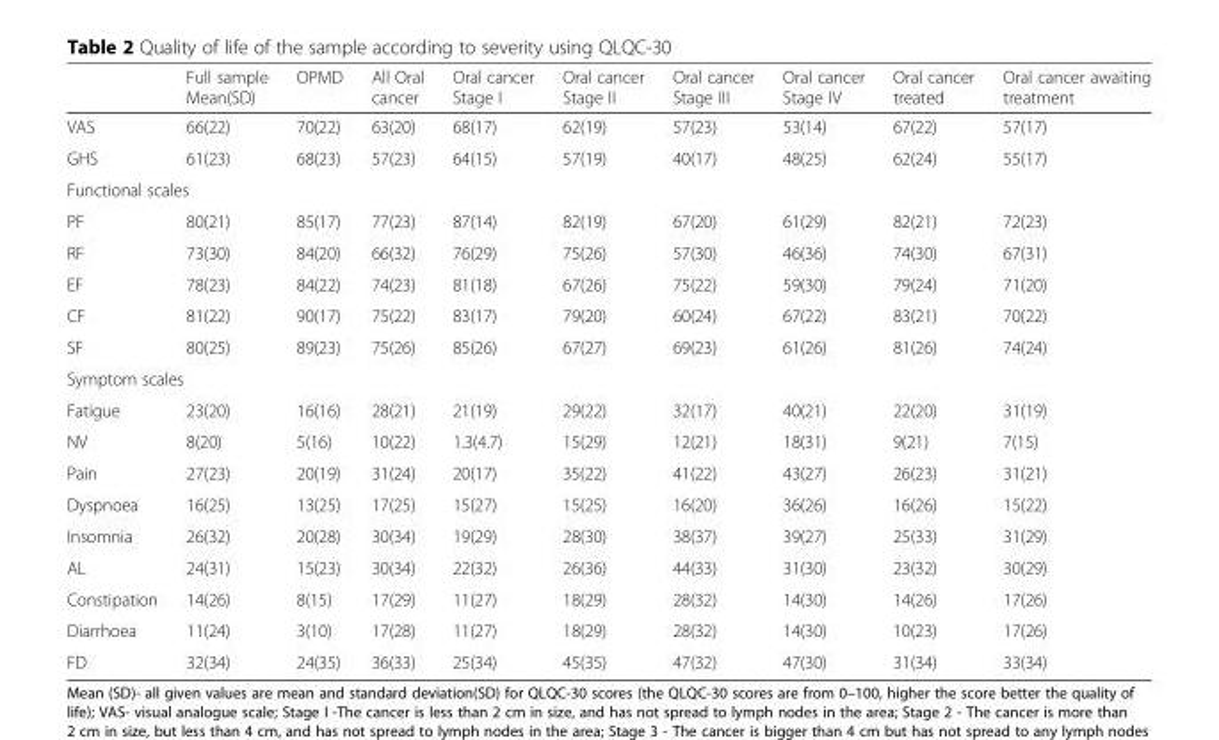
<table><thead><tr><td></td><td>Full sample Mean(SD)</td><td>OPMD</td><td>All Oral cancer</td><td>Oral cancer Stage I</td><td>Oral cancer Stage II</td><td>Oral cancer Stage III</td><td>Oral cancer Stage IV</td><td>Oral cancer treated</td><td>Oral cancer awaiting treatment</td></tr></thead><tbody><tr><td>VAS</td><td>66(22)</td><td>70(22)</td><td>63(20)</td><td>68(17)</td><td>62(19)</td><td>57(23)</td><td>53(14)</td><td>67(22)</td><td>57(17)</td></tr><tr><td>GHS</td><td>61(23)</td><td>68(23)</td><td>57(23)</td><td>64(15)</td><td>57(19)</td><td>40(17)</td><td>48(25)</td><td>62(24)</td><td>55(17)</td></tr><tr><td colspan="10">Functional scales</td></tr><tr><td>PF</td><td>80(21)</td><td>85(17)</td><td>77(23)</td><td>87(14)</td><td>82(19)</td><td>67(20)</td><td>61(29)</td><td>82(21)</td><td>72(23)</td></tr><tr><td>RF</td><td>73(30)</td><td>84(20)</td><td>66(32)</td><td>76(29)</td><td>75(26)</td><td>57(30)</td><td>46(36)</td><td>74(30)</td><td>67(31)</td></tr><tr><td>EF</td><td>78(23)</td><td>84(22)</td><td>74(23)</td><td>81(18)</td><td>67(26)</td><td>75(22)</td><td>59(30)</td><td>79(24)</td><td>71(20)</td></tr><tr><td>CF</td><td>81(22)</td><td>90(17)</td><td>75(22)</td><td>83(17)</td><td>79(20)</td><td>60(24)</td><td>67(22)</td><td>83(21)</td><td>70(22)</td></tr><tr><td>SF</td><td>80(25)</td><td>89(23)</td><td>75(26)</td><td>85(26)</td><td>67(27)</td><td>69(23)</td><td>61(26)</td><td>81(26)</td><td>74(24)</td></tr><tr><td colspan="10">Symptom scales</td></tr><tr><td>Fatigue</td><td>23(20)</td><td>16(16)</td><td>28(21)</td><td>21(19)</td><td>29(22)</td><td>32(17)</td><td>40(21)</td><td>22(20)</td><td>31(19)</td></tr><tr><td>NV</td><td>8(20)</td><td>5(16)</td><td>10(22)</td><td>1.3(4.7)</td><td>15(29)</td><td>12(21)</td><td>18(31)</td><td>9(21)</td><td>7(15)</td></tr><tr><td>Pain</td><td>27(23)</td><td>20(19)</td><td>31(24)</td><td>20(17)</td><td>35(22)</td><td>41(22)</td><td>43(27)</td><td>26(23)</td><td>31(21)</td></tr><tr><td>Dyspnoea</td><td>16(25)</td><td>13(25)</td><td>17(25)</td><td>15(27)</td><td>15(25)</td><td>16(20)</td><td>36(26)</td><td>16(26)</td><td>15(22)</td></tr><tr><td>Insomnia</td><td>26(32)</td><td>20(28)</td><td>30(34)</td><td>19(29)</td><td>28(30)</td><td>38(37)</td><td>39(27)</td><td>25(33)</td><td>31(29)</td></tr><tr><td>AL</td><td>24(31)</td><td>15(23)</td><td>30(34)</td><td>22(32)</td><td>26(36)</td><td>44(33)</td><td>31(30)</td><td>23(32)</td><td>30(29)</td></tr><tr><td>Constipation</td><td>14(26)</td><td>8(15)</td><td>17(29)</td><td>11(27)</td><td>18(29)</td><td>28(32)</td><td>14(30)</td><td>14(26)</td><td>17(26)</td></tr><tr><td>Diarrhoea</td><td>11(24)</td><td>3(10)</td><td>17(28)</td><td>11(27)</td><td>18(29)</td><td>28(32)</td><td>14(30)</td><td>10(23)</td><td>17(26)</td></tr><tr><td>FD</td><td>32(34)</td><td>24(35)</td><td>36(33)</td><td>25(34)</td><td>45(35)</td><td>47(32)</td><td>47(30)</td><td>31(34)</td><td>33(34)</td></tr></tbody></table>